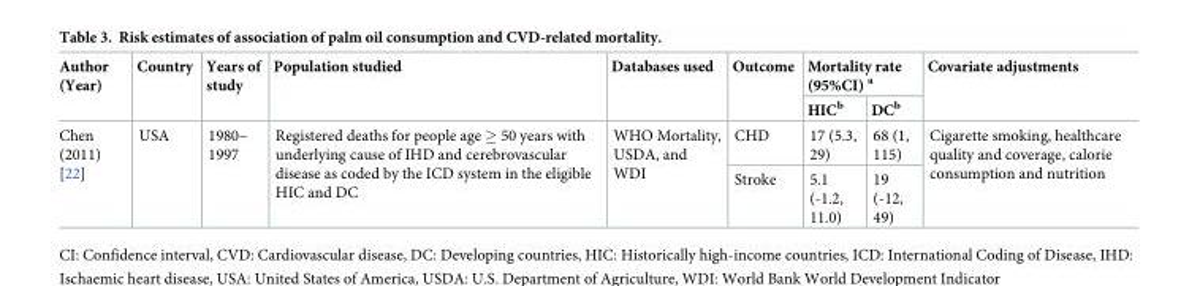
<table><thead><tr><td rowspan="2">Author (Year)</td><td rowspan="2">Country</td><td rowspan="2">Years of study</td><td rowspan="2">Population studied</td><td rowspan="2">Databases used</td><td rowspan="2">Outcome</td><td colspan="2">Mortality rate (95%CI) <sup>a</sup></td><td rowspan="2">Covariate adjustments</td></tr><tr><td>HIC<sup>b</sup></td><td>DC<sup>b</sup></td></tr></thead><tbody><tr><td rowspan="2">Chen (2011) [22]</td><td rowspan="2">USA</td><td rowspan="2">1980– 1997</td><td rowspan="2">Registered deaths for people age ≥ 50 years with underlying cause of IHD and cerebrovascular disease as coded by the ICD system in the eligible HIC and DC</td><td rowspan="2">WHO Mortality, USDA, and WDI</td><td>CHD</td><td>17 (5.3, 29)</td><td>68 (1, 115)</td><td rowspan="2">Cigarette smoking, healthcare quality and coverage, calorie consumption and nutrition</td></tr><tr><td>Stroke</td><td>5.1 (-1.2, 11.0)</td><td>19 (-12, 49)</td></tr></tbody></table>